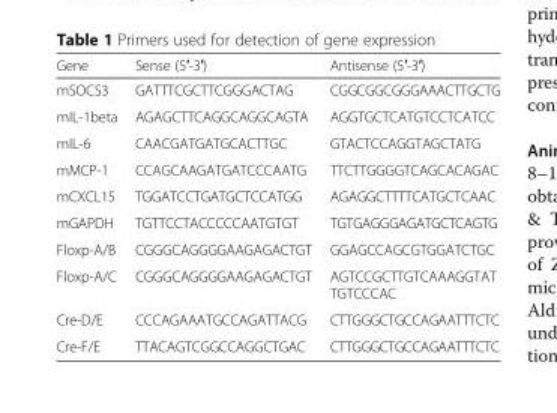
<table><thead><tr><td>Gene</td><td>Sense (5′-3′)</td><td>Antisense (5′-3′)</td></tr></thead><tbody><tr><td>mSOCS3</td><td>GATTTCGCTTCGGGACTAG</td><td>CGGCGGCGGGAAACTTGCTG</td></tr><tr><td>mIL-1beta</td><td>AGAGCTTCAGGCAGGCAGTA</td><td>AGGTGCTCATGTCCTCATCC</td></tr><tr><td>mIL-6</td><td>CAACGATGATGCACTTGC</td><td>GTACTCCAGGTAGCTATG</td></tr><tr><td>mMCP-1</td><td>CCAGCAAGATGATCCCAATG</td><td>TTCTTGGGGTCAGCACAGAC</td></tr><tr><td>mCXCL15</td><td>TGGATCCTGATGCTCCATGG</td><td>AGAGGCTTTTCATGCTCAAC</td></tr><tr><td>mGAPDH</td><td>TGTTCCTACCCCCAATGTGT</td><td>TGTGAGGGAGATGCTCAGTG</td></tr><tr><td>Floxp-A/B</td><td>CGGGCAGGGGAAGAGACTGT</td><td>GGAGCCAGCGTGGATCTGC</td></tr><tr><td>Floxp-A/C</td><td>CGGGCAGGGGAAGAGACTGT</td><td>AGTCCGCTTGTCAAAGGTAT TGTCCCAC</td></tr><tr><td>Cre-D/E</td><td>CCCAGAAATGCCAGATTACG</td><td>CTTGGGCTGCCAGAATTTCTC</td></tr><tr><td>Cre-F/E</td><td>TTACAGTCGGCCAGGCTGAC</td><td>CTTGGGCTGCCAGAATTTCTC</td></tr></tbody></table>